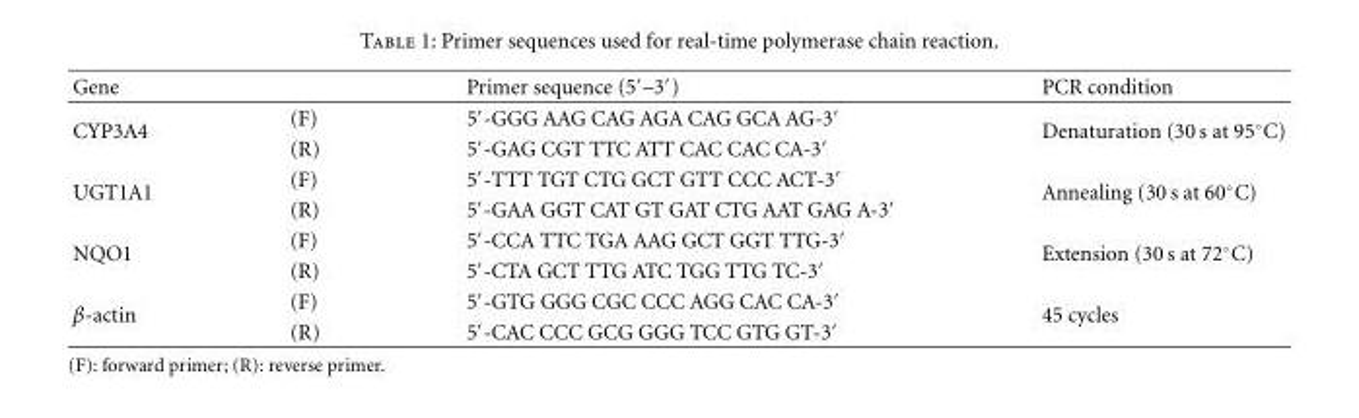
<table><thead><tr><td>Gene</td><td></td><td>Primer sequence (5′–3′)</td><td>PCR condition</td></tr></thead><tbody><tr><td rowspan="2">CYP3A4</td><td>(F)</td><td>5′-GGG AAG CAG AGA CAG GCA AG-3′</td><td rowspan="2">Denaturation (30 s at 95◦C)</td></tr><tr><td>(R)</td><td>5′-GAG CGT TTC ATT CAC CAC CA-3′</td></tr><tr><td rowspan="2">UGT1A1</td><td>(F)</td><td>5′-TTT TGT CTG GCT GTT CCC ACT-3′</td><td rowspan="2">Annealing (30 s at 60◦C)</td></tr><tr><td>(R)</td><td>5′-GAA GGT CAT GT GAT CTG AAT GAG A-3′</td></tr><tr><td rowspan="2">NQO1</td><td>(F)</td><td>5′-CCA TTC TGA AAG GCT GGT TTG-3′</td><td rowspan="2">Extension (30 s at 72◦C)</td></tr><tr><td>(R)</td><td>5′-CTA GCT TTG ATC TGG TTG TC-3′</td></tr><tr><td rowspan="2">β-actin</td><td>(F)</td><td>5′-GTG GGG CGC CCC AGG CAC CA-3′</td><td rowspan="2">45 cycles</td></tr><tr><td>(R)</td><td>5′-CAC CCC GCG GGG TCC GTG GT-3′</td></tr></tbody></table>